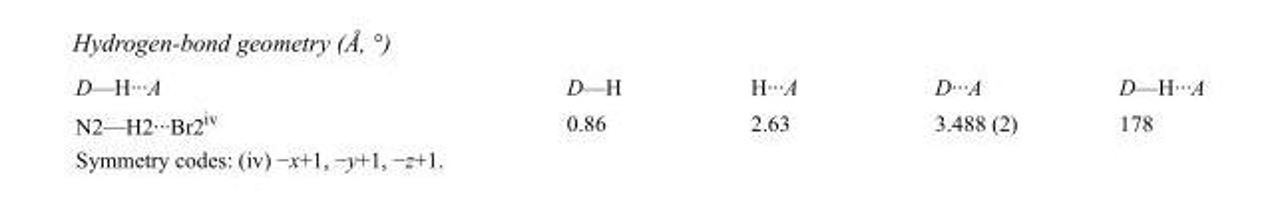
<table><tbody><tr><td>D—H···A</td><td>D—H</td><td>H···A</td><td>D···A</td><td>D—H···A</td></tr><tr><td>N2—H2···Br2<sup>iv</sup></td><td>0.86</td><td>2.63</td><td>3.488 (2)</td><td>178</td></tr></tbody></table>